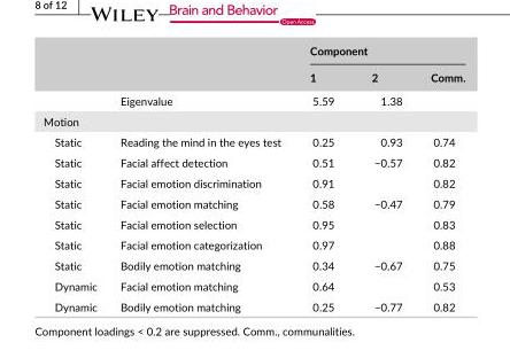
<table><thead><tr><td rowspan="2"></td><td rowspan="2"></td><td colspan="3">Component</td></tr><tr><td>1</td><td>2</td><td>Comm.</td></tr></thead><tbody><tr><td></td><td>Eigenvalue</td><td>5.59</td><td>1.38</td><td></td></tr><tr><td colspan="5">Motion</td></tr><tr><td>Static</td><td>Reading the mind in the eyes test</td><td>0.25</td><td>0.93</td><td>0.74</td></tr><tr><td>Static</td><td>Facial affect detection</td><td>0.51</td><td>−0.57</td><td>0.82</td></tr><tr><td>Static</td><td>Facial emotion discrimination</td><td>0.91</td><td></td><td>0.82</td></tr><tr><td>Static</td><td>Facial emotion matching</td><td>0.58</td><td>−0.47</td><td>0.79</td></tr><tr><td>Static</td><td>Facial emotion selection</td><td>0.95</td><td></td><td>0.83</td></tr><tr><td>Static</td><td>Facial emotion categorization</td><td>0.97</td><td></td><td>0.88</td></tr><tr><td>Static</td><td>Bodily emotion matching</td><td>0.34</td><td>−0.67</td><td>0.75</td></tr><tr><td>Dynamic</td><td>Facial emotion matching</td><td>0.64</td><td></td><td>0.53</td></tr><tr><td>Dynamic</td><td>Bodily emotion matching</td><td>0.25</td><td>−0.77</td><td>0.82</td></tr></tbody></table>